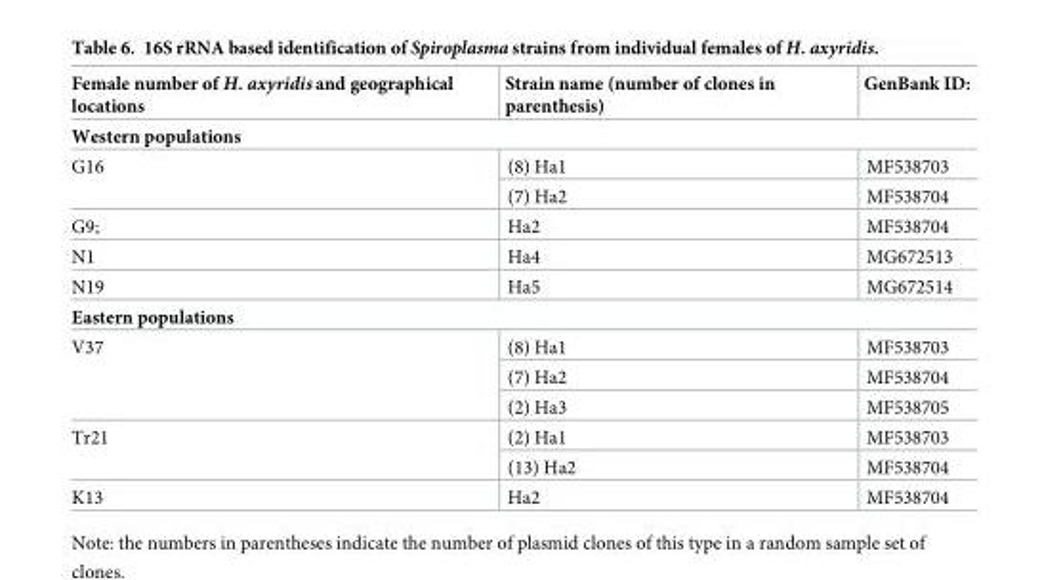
<table><thead><tr><td>Female number of H. axyridisand geographical locations</td><td>Strain name (number of clones in parenthesis)</td><td>GenBank ID:</td></tr></thead><tbody><tr><td colspan="3">Western populations</td></tr><tr><td rowspan="2">G16</td><td>(8) Ha1</td><td>MF538703</td></tr><tr><td>(7) Ha2</td><td>MF538704</td></tr><tr><td>G9;</td><td>Ha2</td><td>MF538704</td></tr><tr><td>N1</td><td>Ha4</td><td>MG672513</td></tr><tr><td>N19</td><td>Ha5</td><td>MG672514</td></tr><tr><td colspan="3">Eastern populations</td></tr><tr><td rowspan="3">V37</td><td>(8) Ha1</td><td>MF538703</td></tr><tr><td>(7) Ha2</td><td>MF538704</td></tr><tr><td>(2) Ha3</td><td>MF538705</td></tr><tr><td rowspan="2">Tr21</td><td>(2) Ha1</td><td>MF538703</td></tr><tr><td>(13) Ha2</td><td>MF538704</td></tr><tr><td>K13</td><td>Ha2</td><td>MF538704</td></tr></tbody></table>